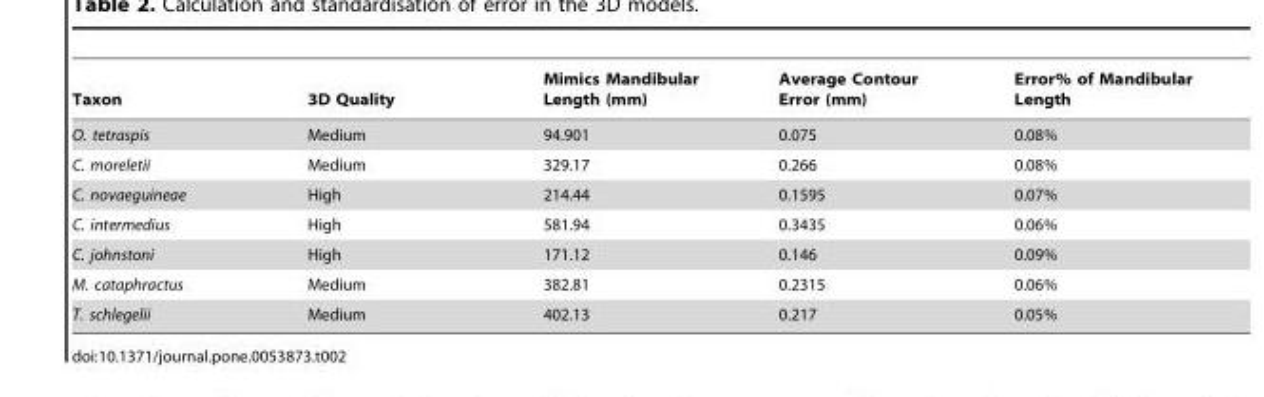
<table><thead><tr><td>Taxon</td><td>3D Quality</td><td>Mimics Mandibular Length (mm)</td><td>Average Contour Error (mm)</td><td>Error% of Mandibular Length</td></tr></thead><tbody><tr><td>O. tetraspis</td><td>Medium</td><td>94.901</td><td>0.075</td><td>0.08%</td></tr><tr><td>C. moreletii</td><td>Medium</td><td>329.17</td><td>0.266</td><td>0.08%</td></tr><tr><td>C. novaeguineae</td><td>High</td><td>214.44</td><td>0.1595</td><td>0.07%</td></tr><tr><td>C. intermedius</td><td>High</td><td>581.94</td><td>0.3435</td><td>0.06%</td></tr><tr><td>C. johnstoni</td><td>High</td><td>171.12</td><td>0.146</td><td>0.09%</td></tr><tr><td>M. cataphractus</td><td>Medium</td><td>382.81</td><td>0.2315</td><td>0.06%</td></tr><tr><td>T. schlegelii</td><td>Medium</td><td>402.13</td><td>0.217</td><td>0.05%</td></tr></tbody></table>